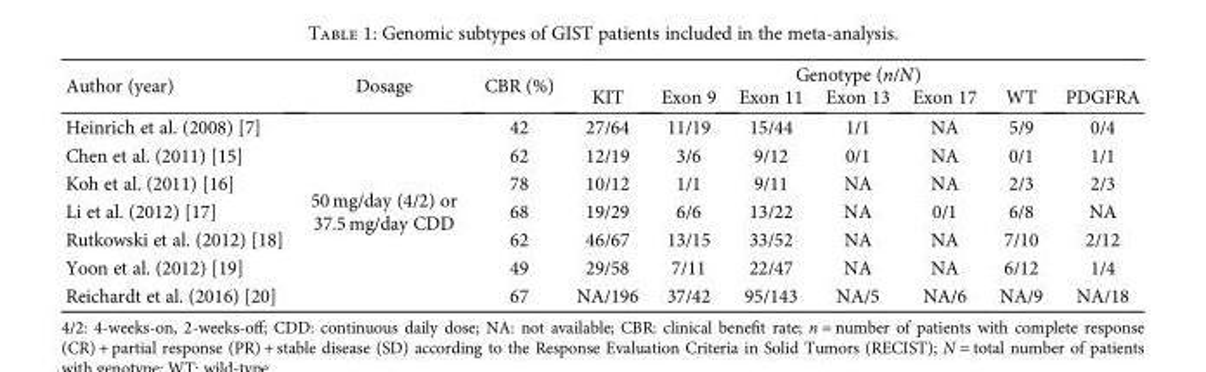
<table><thead><tr><td rowspan="2">Author (year)</td><td rowspan="2">Dosage</td><td rowspan="2">CBR (%)</td><td colspan="7">Genotype (n/N)</td></tr><tr><td>KIT</td><td>Exon 9</td><td>Exon 11</td><td>Exon 13</td><td>Exon 17</td><td>WT</td><td>PDGFRA</td></tr></thead><tbody><tr><td>Heinrich et al. (2008) [7]</td><td rowspan="7">50 mg/day (4/2) or 37.5 mg/day CDD</td><td>42</td><td>27/64</td><td>11/19</td><td>15/44</td><td>1/1</td><td>NA</td><td>5/9</td><td>0/4</td></tr><tr><td>Chen et al. (2011) [15]</td><td>62</td><td>12/19</td><td>3/6</td><td>9/12</td><td>0/1</td><td>NA</td><td>0/1</td><td>1/1</td></tr><tr><td>Koh et al. (2011) [16]</td><td>78</td><td>10/12</td><td>1/1</td><td>9/11</td><td>NA</td><td>NA</td><td>2/3</td><td>2/3</td></tr><tr><td>Li et al. (2012) [17]</td><td>68</td><td>19/29</td><td>6/6</td><td>13/22</td><td>NA</td><td>0/1</td><td>6/8</td><td>NA</td></tr><tr><td>Rutkowski et al. (2012) [18]</td><td>62</td><td>46/67</td><td>13/15</td><td>33/52</td><td>NA</td><td>NA</td><td>7/10</td><td>2/12</td></tr><tr><td>Yoon et al. (2012) [19]</td><td>49</td><td>29/58</td><td>7/11</td><td>22/47</td><td>NA</td><td>NA</td><td>6/12</td><td>1/4</td></tr><tr><td>Reichardt et al. (2016) [20]</td><td>67</td><td>NA/196</td><td>37/42</td><td>95/143</td><td>NA/5</td><td>NA/6</td><td>NA/9</td><td>NA/18</td></tr></tbody></table>